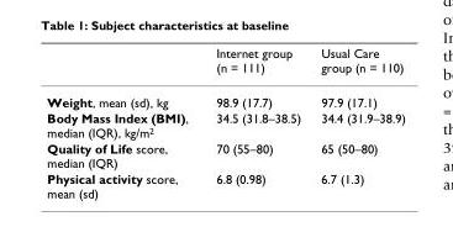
<table><thead><tr><td></td><td>Internet group (n = 111)</td><td>Usual Care group (n = 110)</td></tr></thead><tbody><tr><td>Weight, mean (sd), kg</td><td>98.9 (17.7)</td><td>97.9 (17.1)</td></tr><tr><td>Body Mass Index (BMI), median (IQR), kg/m<sup>2</sup></td><td>34.5 (31.8–38.5)</td><td>34.4 (31.9–38.9)</td></tr><tr><td>Quality of Life score, median (IQR)</td><td>70 (55–80)</td><td>65 (50–80)</td></tr><tr><td>Physical activity score, mean (sd)</td><td>6.8 (0.98)</td><td>6.7 (1.3)</td></tr></tbody></table>